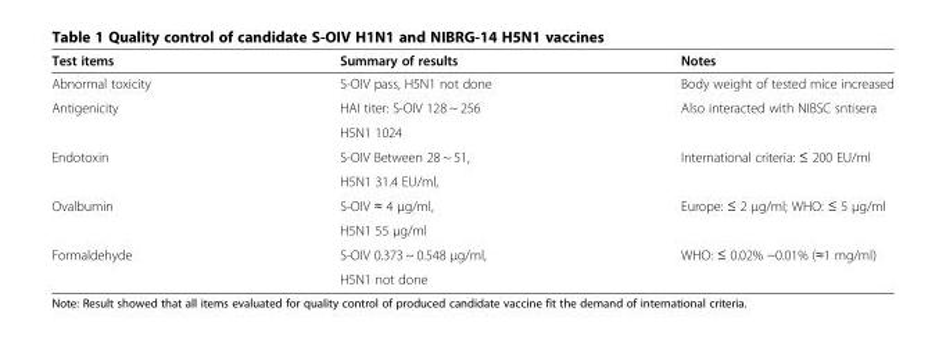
<table><thead><tr><td>Test items</td><td>Summary of results</td><td>Notes</td></tr></thead><tbody><tr><td>Abnormal toxicity</td><td>S-OIV pass, H5N1 not done</td><td>Body weight of tested mice increased</td></tr><tr><td rowspan="2">Antigenicity</td><td>HAI titer: S-OIV 128 ~ 256</td><td>Also interacted with NIBSC sntisera</td></tr><tr><td>H5N1 1024</td><td></td></tr><tr><td rowspan="2">Endotoxin</td><td>S-OIV Between 28 ~ 51,</td><td>International criteria: ≤ 200 EU/ml</td></tr><tr><td>H5N1 31.4 EU/ml,</td><td></td></tr><tr><td rowspan="2">Ovalbumin</td><td>S-OIV ≈ 4 μg/ml,</td><td>Europe: ≤ 2 μg/ml; WHO: ≤ 5 μg/ml</td></tr><tr><td>H5N1 55 μg/ml</td><td></td></tr><tr><td rowspan="2">Formaldehyde</td><td>S-OIV 0.373 ~ 0.548 μg/ml,</td><td>WHO: ≤ 0.02% ~0.01% (≈1 mg/ml)</td></tr><tr><td>H5N1 not done</td><td></td></tr></tbody></table>